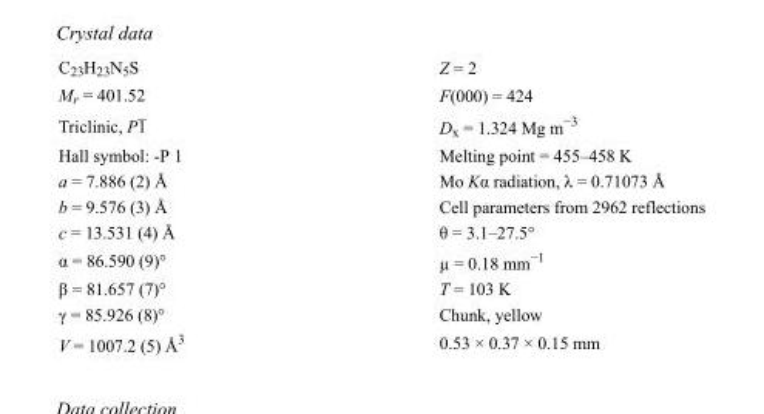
<table><tbody><tr><td>C<sub>23</sub>H<sub>23</sub>N<sub>5</sub>S</td><td>Z = 2</td></tr><tr><td>M<sub>r</sub> = 401.52</td><td>F(000) = 424</td></tr><tr><td>Triclinic, P1</td><td>D<sub>x</sub> = 1.324 Mg m<sup>−3</sup></td></tr><tr><td>Hall symbol: -P 1</td><td>Melting point = 455–458 K</td></tr><tr><td>a = 7.886 (2) Å</td><td>Mo Kα radiation, λ = 0.71073 Å</td></tr><tr><td>b = 9.576 (3) Å</td><td>Cell parameters from 2962 reflections</td></tr><tr><td>c = 13.531 (4) Å</td><td>θ = 3.1–27.5°</td></tr><tr><td>α = 86.590 (9)°</td><td>µ = 0.18 mm<sup>−1</sup></td></tr><tr><td>β = 81.657 (7)°</td><td>T = 103 K</td></tr><tr><td>γ = 85.926 (8)°</td><td>Chunk, yellow</td></tr><tr><td>V = 1007.2 (5) Å<sup>3</sup></td><td>0.53 × 0.37 × 0.15 mm</td></tr></tbody></table>